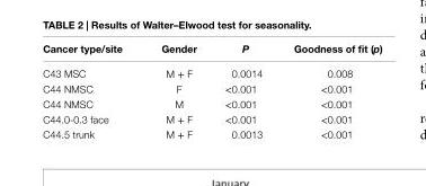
<table><thead><tr><td>cancer type/site</td><td>gender</td><td>P</td><td>goodness of fit (p)</td></tr></thead><tbody><tr><td>C43 MSC</td><td>M + F</td><td>0.0014</td><td>0.008</td></tr><tr><td>C44 NMSC</td><td>F</td><td>&lt;0.001</td><td>&lt;0.001</td></tr><tr><td>C44 NMSC</td><td>M</td><td>&lt;0.001</td><td>&lt;0.001</td></tr><tr><td>C44.0-0.3 face</td><td>M + F</td><td>&lt;0.001</td><td>&lt;0.001</td></tr><tr><td>C44.5 trunk</td><td>M + F</td><td>0.0013</td><td>&lt;0.001</td></tr></tbody></table>